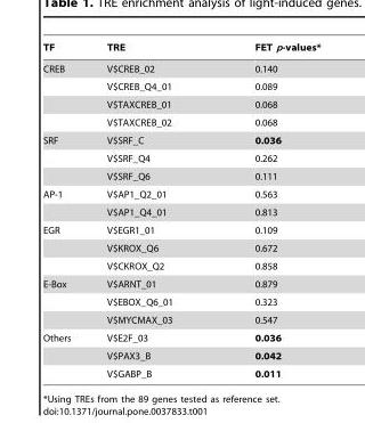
<table><thead><tr><td>TF</td><td>TRE</td><td>FET p-values*</td></tr></thead><tbody><tr><td rowspan="4">CREB</td><td>V$CREB_02</td><td>0.140</td></tr><tr><td>V$CREB_Q4_01</td><td>0.089</td></tr><tr><td>V$TAXCREB_01</td><td>0.068</td></tr><tr><td>V$TAXCREB_02</td><td>0.068</td></tr><tr><td rowspan="3">SRF</td><td>V$SRF_C</td><td>0.036</td></tr><tr><td>V$SRF_Q4</td><td>0.262</td></tr><tr><td>V$SRF_Q6</td><td>0.111</td></tr><tr><td rowspan="2">AP-1</td><td>V$AP1_Q2_01</td><td>0.563</td></tr><tr><td>V$AP1_Q4_01</td><td>0.813</td></tr><tr><td rowspan="3">EGR</td><td>V$EGR1_01</td><td>0.109</td></tr><tr><td>V$KROX_Q6</td><td>0.672</td></tr><tr><td>V$CKROX_Q2</td><td>0.858</td></tr><tr><td rowspan="3">E-Box</td><td>V$ARNT_01</td><td>0.879</td></tr><tr><td>V$EBOX_Q6_01</td><td>0.323</td></tr><tr><td>V$MYCMAX_03</td><td>0.547</td></tr><tr><td rowspan="3">Others</td><td>V$E2F_03</td><td>0.036</td></tr><tr><td>V$PAX3_B</td><td>0.042</td></tr><tr><td>V$GABP_B</td><td>0.011</td></tr></tbody></table>